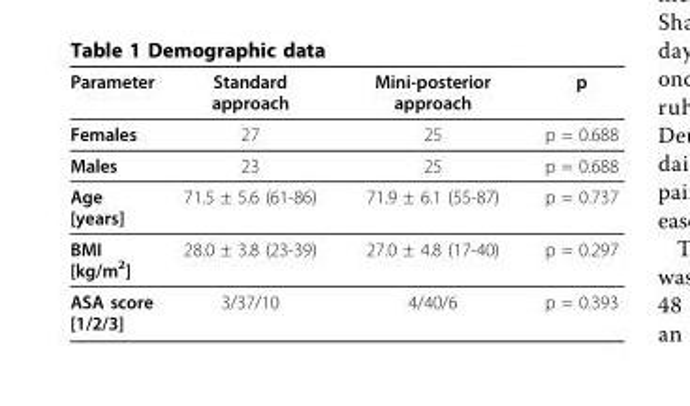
<table><thead><tr><td>Parameter</td><td>Standard approach</td><td>Mini-posterior approach</td><td>p</td></tr></thead><tbody><tr><td>Females</td><td>27</td><td>25</td><td>p = 0.688</td></tr><tr><td>Males</td><td>23</td><td>25</td><td>p = 0.688</td></tr><tr><td>Age [years]</td><td>71.5 ± 5.6 (61-86)</td><td>71.9 ± 6.1 (55-87)</td><td>p = 0.737</td></tr><tr><td>BMI [kg/m<sup>2</sup>]</td><td>28.0 ± 3.8 (23-39)</td><td>27.0 ± 4.8 (17-40)</td><td>p = 0.297</td></tr><tr><td>ASA score [1/2/3]</td><td>3/37/10</td><td>4/40/6</td><td>p = 0.393</td></tr></tbody></table>